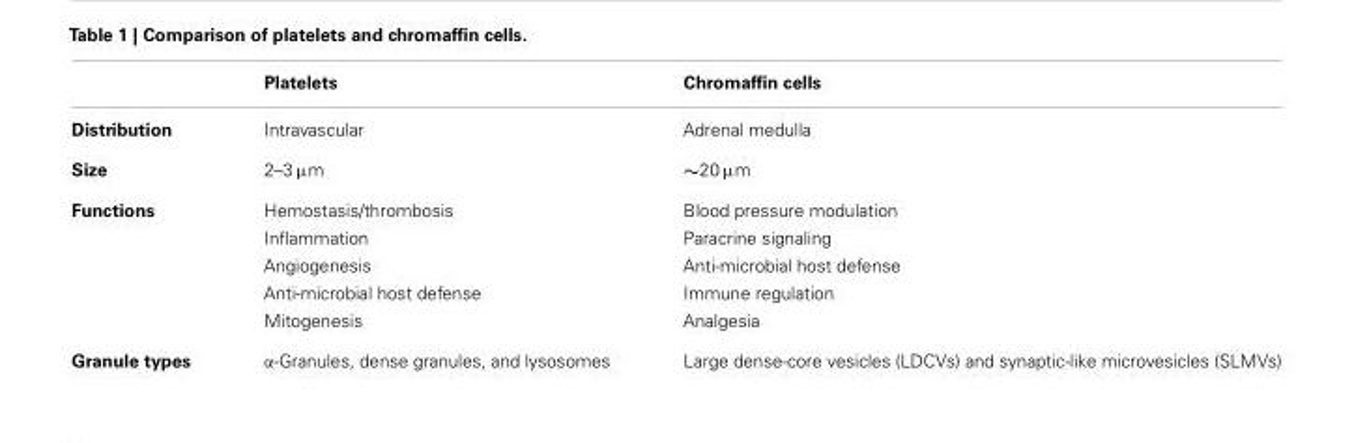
<table><thead><tr><td></td><td>Platelets</td><td>Chromaffin cells</td></tr></thead><tbody><tr><td>Distribution</td><td>Intravascular</td><td>Adrenal medulla</td></tr><tr><td>Size</td><td>2–3 µm</td><td>∼20 µm</td></tr><tr><td rowspan="5">Functions</td><td>Hemostasis/thrombosis</td><td>Blood pressure modulation</td></tr><tr><td>Inflammation</td><td>Paracrine signaling</td></tr><tr><td>Angiogenesis</td><td>Anti-microbial host defense</td></tr><tr><td>Anti-microbial host defense</td><td>Immune regulation</td></tr><tr><td>Mitogenesis</td><td>Analgesia</td></tr><tr><td>Granule types</td><td>α-Granules, dense granules, and lysosomes</td><td>Large dense-core vesicles (LDCVs) and synaptic-like microvesicles (SLMVs)</td></tr></tbody></table>